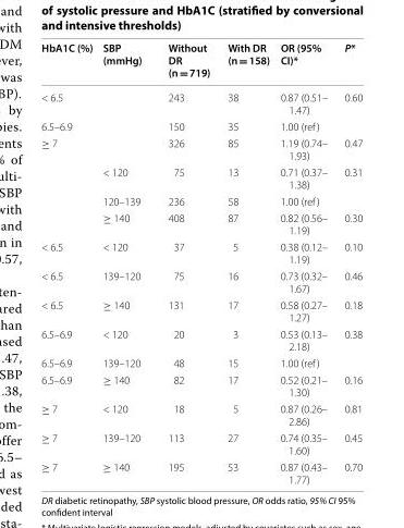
<table><thead><tr><td>HbA1C (%)</td><td>SBP (mmHg)</td><td>Without DR (n = 719)</td><td>With DR (n = 158)</td><td>OR (95% CI)*</td><td>P*</td></tr></thead><tbody><tr><td>&lt; 6.5</td><td></td><td>243</td><td>38</td><td>0.87 (0.51– 1.47)</td><td>0.60</td></tr><tr><td>6.5–6.9</td><td></td><td>150</td><td>35</td><td>1.00 (ref)</td><td></td></tr><tr><td rowspan="4">≥ 7</td><td></td><td>326</td><td>85</td><td>1.19 (0.74– 1.93)</td><td>0.47</td></tr><tr><td>&lt; 120</td><td>75</td><td>13</td><td>0.71 (0.37– 1.38)</td><td>0.31</td></tr><tr><td>120–139</td><td>236</td><td>58</td><td>1.00 (ref)</td><td></td></tr><tr><td>≥ 140</td><td>408</td><td>87</td><td>0.82 (0.56– 1.19)</td><td>0.30</td></tr><tr><td>&lt; 6.5</td><td>&lt; 120</td><td>37</td><td>5</td><td>0.38 (0.12– 1.19)</td><td>0.10</td></tr><tr><td>&lt; 6.5</td><td>139–120</td><td>75</td><td>16</td><td>0.73 (0.32– 1.67)</td><td>0.46</td></tr><tr><td>&lt; 6.5</td><td>≥ 140</td><td>131</td><td>17</td><td>0.58 (0.27– 1.27)</td><td>0.18</td></tr><tr><td>6.5–6.9</td><td>&lt; 120</td><td>20</td><td>3</td><td>0.53 (0.13– 2.18)</td><td>0.38</td></tr><tr><td>6.5–6.9</td><td>139–120</td><td>48</td><td>15</td><td>1.00 (ref)</td><td></td></tr><tr><td>6.5–6.9</td><td>≥ 140</td><td>82</td><td>17</td><td>0.52 (0.21– 1.30)</td><td>0.16</td></tr><tr><td>≥ 7</td><td>&lt; 120</td><td>18</td><td>5</td><td>0.87 (0.26– 2.86)</td><td>0.81</td></tr><tr><td>≥ 7</td><td>139–120</td><td>113</td><td>27</td><td>0.74 (0.35– 1.60)</td><td>0.45</td></tr><tr><td>≥ 7</td><td>≥ 140</td><td>195</td><td>53</td><td>0.87 (0.43– 1.77)</td><td>0.70</td></tr></tbody></table>